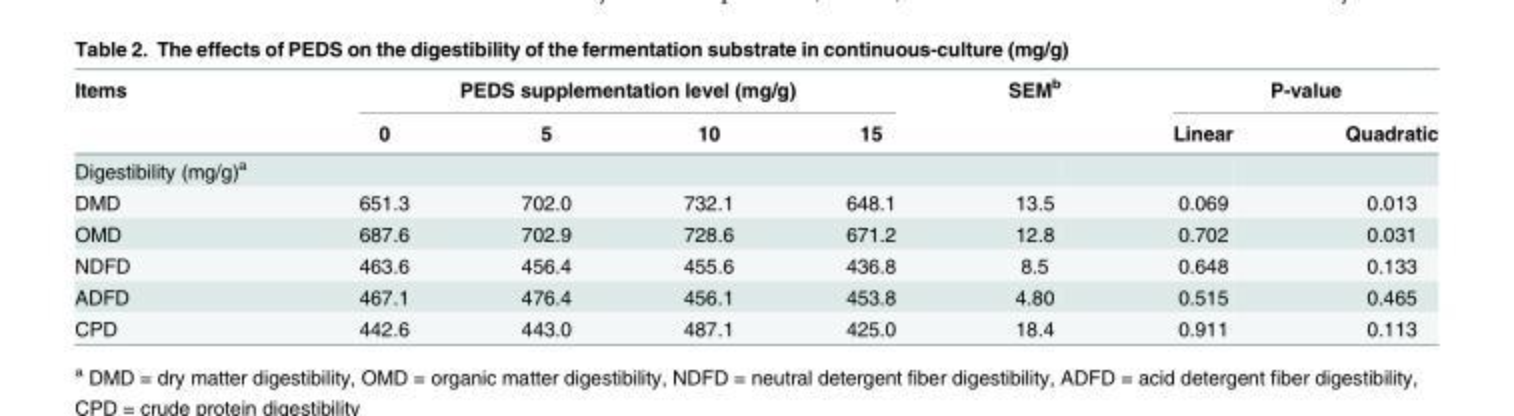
<table><thead><tr><td rowspan="2">Items</td><td colspan="4">PEDS supplementation level (mg/g)</td><td rowspan="2">SEM<sup>b</sup></td><td colspan="2">P-value</td></tr><tr><td>0</td><td>5</td><td>10</td><td>15</td><td>Linear</td><td>Quadratic</td></tr></thead><tbody><tr><td colspan="8">Digestibility (mg/g)<sup>a</sup></td></tr><tr><td>DMD</td><td>651.3</td><td>702.0</td><td>732.1</td><td>648.1</td><td>13.5</td><td>0.069</td><td>0.013</td></tr><tr><td>OMD</td><td>687.6</td><td>702.9</td><td>728.6</td><td>671.2</td><td>12.8</td><td>0.702</td><td>0.031</td></tr><tr><td>NDFD</td><td>463.6</td><td>456.4</td><td>455.6</td><td>436.8</td><td>8.5</td><td>0.648</td><td>0.133</td></tr><tr><td>ADFD</td><td>467.1</td><td>476.4</td><td>456.1</td><td>453.8</td><td>4.80</td><td>0.515</td><td>0.465</td></tr><tr><td>CPD</td><td>442.6</td><td>443.0</td><td>487.1</td><td>425.0</td><td>18.4</td><td>0.911</td><td>0.113</td></tr></tbody></table>